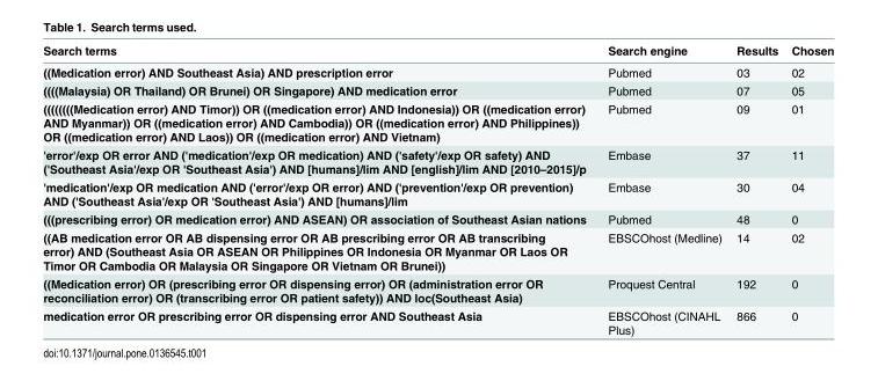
<table><thead><tr><td>Search terms</td><td>Search engine</td><td>Results</td><td>Chosen</td></tr></thead><tbody><tr><td>((Medication error) AND Southeast Asia) AND prescription error</td><td>Pubmed</td><td>03</td><td>02</td></tr><tr><td>((((Malaysia) OR Thailand) OR Brunei) OR Singapore) AND medication error</td><td>Pubmed</td><td>07</td><td>05</td></tr><tr><td>((((((((Medication error) AND Timor)) OR ((medication error) AND Indonesia)) OR ((medication error) AND Myanmar)) OR ((medication error) AND Cambodia)) OR ((medication error) AND Philippines)) OR ((medication error) AND Laos)) OR ((medication error) AND Vietnam)</td><td>Pubmed</td><td>09</td><td>01</td></tr><tr><td>&#x27;error&#x27;/exp OR error AND (&#x27;medication&#x27;/exp OR medication) AND (&#x27;safety&#x27;/exp OR safety) AND (&#x27;Southeast Asia&#x27;/exp OR &#x27;Southeast Asia&#x27;) AND [humans]/lim AND [english]/lim AND [2010–2015]/p</td><td>Embase</td><td>37</td><td>11</td></tr><tr><td>&#x27;medication&#x27;/exp OR medication AND (&#x27;error&#x27;/exp OR error) AND (&#x27;prevention&#x27;/exp OR prevention) AND (&#x27;Southeast Asia&#x27;/exp OR &#x27;Southeast Asia&#x27;) AND [humans]/lim</td><td>Embase</td><td>30</td><td>04</td></tr><tr><td>(((prescribing error) OR medication error) AND ASEAN) OR association of Southeast Asian nations</td><td>Pubmed</td><td>48</td><td>0</td></tr><tr><td>((AB medication error OR AB dispensing error OR AB prescribing error OR AB transcribing error) AND (Southeast Asia OR ASEAN OR Philippines OR Indonesia OR Myanmar OR Laos OR Timor OR Cambodia OR Malaysia OR Singapore OR Vietnam OR Brunei))</td><td>EBSCOhost (Medline)</td><td>14</td><td>02</td></tr><tr><td>((Medication error) OR (prescribing error OR dispensing error) OR (administration error OR reconciliation error) OR (transcribing error OR patient safety)) AND loc(Southeast Asia)</td><td>Proquest Central</td><td>192</td><td>0</td></tr><tr><td>medication error OR prescribing error OR dispensing error AND Southeast Asia</td><td>EBSCOhost (CINAHL Plus)</td><td>866</td><td>0</td></tr></tbody></table>